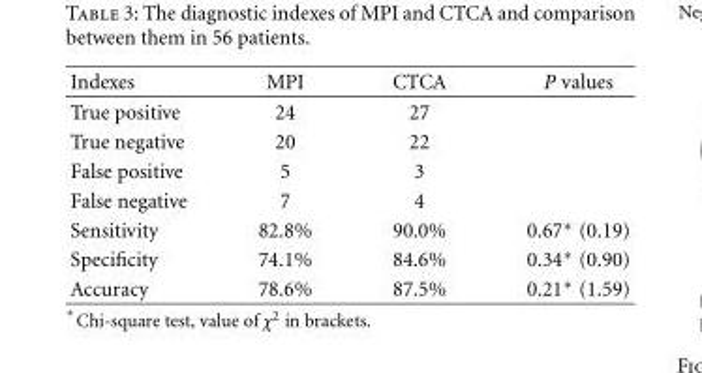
<table><thead><tr><td>Indexes</td><td>MPI</td><td>CTCA</td><td>P values</td></tr></thead><tbody><tr><td>True positive</td><td>24</td><td>27</td><td></td></tr><tr><td>True negative</td><td>20</td><td>22</td><td></td></tr><tr><td>False positive</td><td>5</td><td>3</td><td></td></tr><tr><td>False negative</td><td>7</td><td>4</td><td></td></tr><tr><td>Sensitivity</td><td>82.8%</td><td>90.0%</td><td>0.67∗ (0.19)</td></tr><tr><td>Specificity</td><td>74.1%</td><td>84.6%</td><td>0.34∗ (0.90)</td></tr><tr><td>Accuracy</td><td>78.6%</td><td>87.5%</td><td>0.21∗ (1.59)</td></tr></tbody></table>